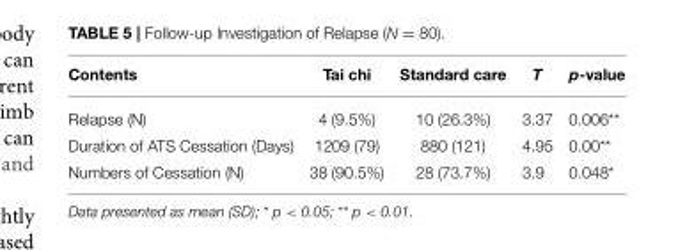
<table><thead><tr><td>Contents</td><td>Tai chi</td><td>Standard care</td><td>T</td><td>p-value</td></tr></thead><tbody><tr><td>Relapse (N)</td><td>4 (9.5%)</td><td>10 (26.3%)</td><td>3.37</td><td>0.006**</td></tr><tr><td>Duration of ATS Cessation (Days)</td><td>1209 (79)</td><td>880 (121)</td><td>4.95</td><td>0.00**</td></tr><tr><td>Numbers of Cessation (N)</td><td>38 (90.5%)</td><td>28 (73.7%)</td><td>3.9</td><td>0.048*</td></tr></tbody></table>